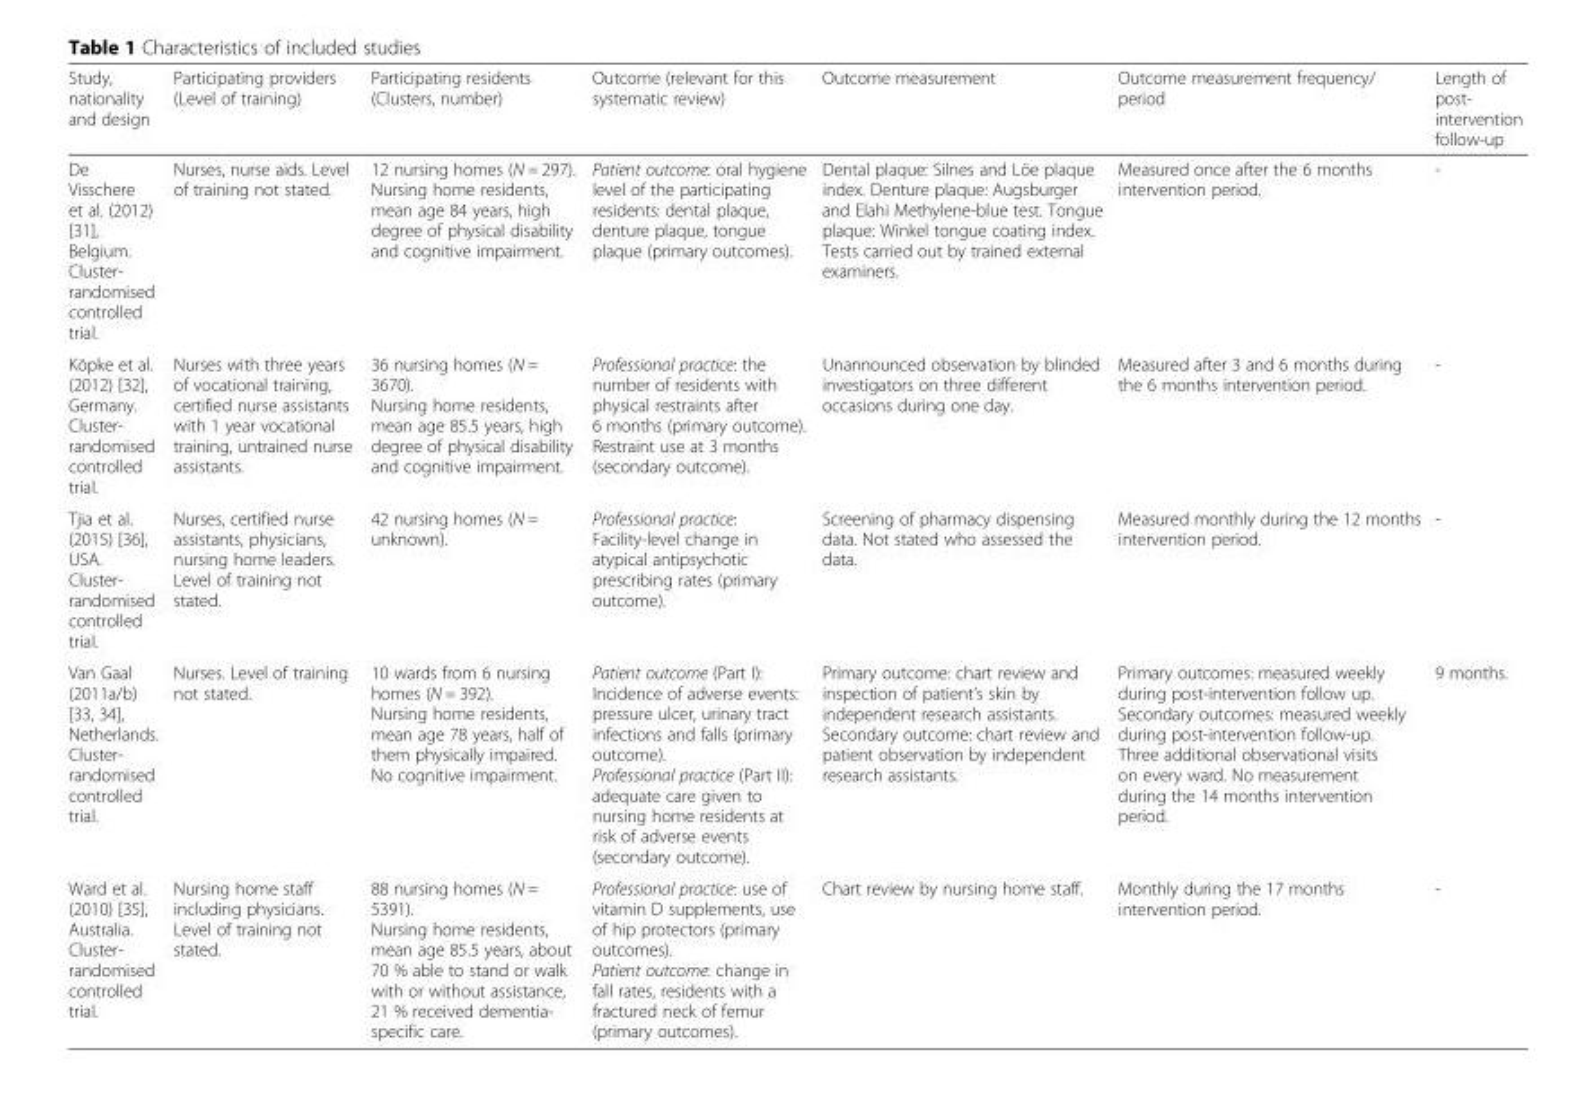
<table><thead><tr><td>Study, nationality and design</td><td>Participating providers (Level of training)</td><td>Participating residents (Clusters, number)</td><td>Outcome (relevant for this systematic review)</td><td>Outcome measurement</td><td>Outcome measurement frequency/ period</td><td>Length of post- intervention follow-up</td></tr></thead><tbody><tr><td>De Visschere et al. (2012) [31], Belgium. Cluster- randomised controlled trial.</td><td>Nurses, nurse aids. Level of training not stated.</td><td>12 nursing homes (N = 297). Nursing home residents, mean age 84 years, high degree of physical disability and cognitive impairment.</td><td>Patient outcome: oral hygiene level of the participating residents: dental plaque, denture plaque, tongue plaque (primary outcomes).</td><td>Dental plaque: Silnes and Löe plaque index. Denture plaque: Augsburger and Elahi Methylene-blue test. Tongue plaque: Winkel tongue coating index. Tests carried out by trained external examiners.</td><td>Measured once after the 6 months intervention period.</td><td>-</td></tr><tr><td>Köpke et al. (2012) [32], Germany. Cluster- randomised controlled trial.</td><td>Nurses with three years of vocational training, certified nurse assistants with 1 year vocational training, untrained nurse assistants.</td><td>36 nursing homes (N = 3670). Nursing home residents, mean age 85.5 years, high degree of physical disability and cognitive impairment.</td><td>Professional practice: the number of residents with physical restraints after 6 months (primary outcome). Restraint use at 3 months (secondary outcome).</td><td>Unannounced observation by blinded investigators on three different occasions during one day.</td><td>Measured after 3 and 6 months during the 6 months intervention period.</td><td>-</td></tr><tr><td>Tjia et al. (2015) [36], USA. Cluster- randomised controlled trial.</td><td>Nurses, certified nurse assistants, physicians, nursing home leaders. Level of training not stated.</td><td>42 nursing homes (N = unknown).</td><td>Professional practice: Facility-level change in atypical antipsychotic prescribing rates (primary outcome).</td><td>Screening of pharmacy dispensing data. Not stated who assessed the data.</td><td>Measured monthly during the 12 months intervention period.</td><td>-</td></tr><tr><td>Van Gaal (2011a/b) [33, 34], Netherlands. Cluster- randomised controlled trial.</td><td>Nurses. Level of training not stated.</td><td>10 wards from 6 nursing homes (N = 392). Nursing home residents, mean age 78 years, half of them physically impaired. No cognitive impairment.</td><td>Patient outcome (Part I): Incidence of adverse events: pressure ulcer, urinary tract infections and falls (primary outcome). Professional practice (Part II): adequate care given to nursing home residents at risk of adverse events (secondary outcome).</td><td>Primary outcome: chart review and inspection of patient’s skin by independent research assistants. Secondary outcome: chart review and patient observation by independent research assistants.</td><td>Primary outcomes: measured weekly during post-intervention follow up. Secondary outcomes: measured weekly during post-intervention follow-up. Three additional observational visits on every ward. No measurement during the 14 months intervention period.</td><td>9 months.</td></tr><tr><td>Ward et al. (2010) [35], Australia. Cluster- randomised controlled trial.</td><td>Nursing home staff including physicians. Level of training not stated.</td><td>88 nursing homes (N = 5391). Nursing home residents, mean age 85.5 years, about 70 % able to stand or walk with or without assistance, 21 % received dementia- specific care.</td><td>Professional practice: use of vitamin D supplements, use of hip protectors (primary outcomes). Patient outcome: change in fall rates, residents with a fractured neck of femur (primary outcomes).</td><td>Chart review by nursing home staff.</td><td>Monthly during the 17 months intervention period.</td><td>-</td></tr></tbody></table>